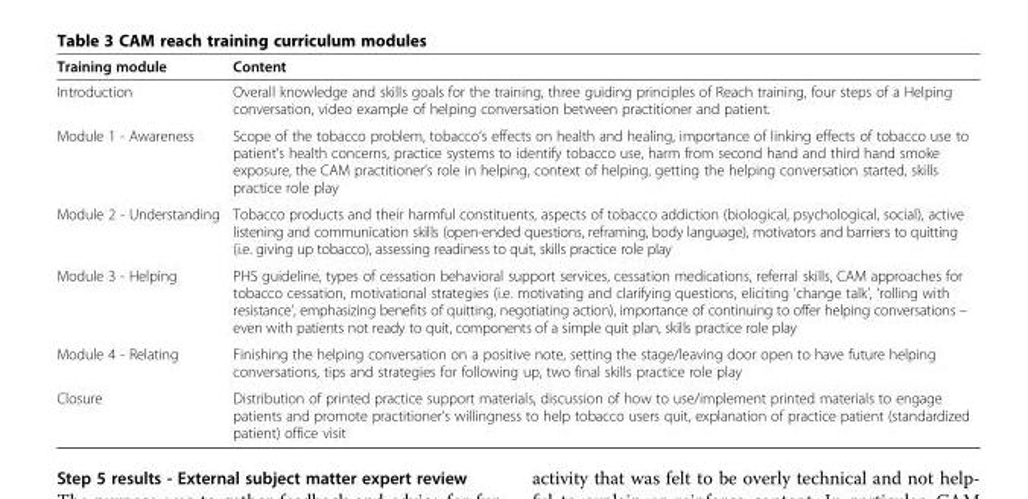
<table><thead><tr><td>Training module</td><td>Content</td></tr></thead><tbody><tr><td>Introduction</td><td>Overall knowledge and skills goals for the training, three guiding principles of Reach training, four steps of a Helping conversation, video example of helping conversation between practitioner and patient.</td></tr><tr><td>Module 1 - Awareness</td><td>Scope of the tobacco problem, tobacco’s effects on health and healing, importance of linking effects of tobacco use to patient’s health concerns, practice systems to identify tobacco use, harm from second hand and third hand smoke exposure, the CAM practitioner’s role in helping, context of helping, getting the helping conversation started, skills practice role play</td></tr><tr><td>Module 2 - Understanding</td><td>Tobacco products and their harmful constituents, aspects of tobacco addiction (biological, psychological, social), active listening and communication skills (open-ended questions, reframing, body language), motivators and barriers to quitting (i.e. giving up tobacco), assessing readiness to quit, skills practice role play</td></tr><tr><td>Module 3 - Helping</td><td>PHS guideline, types of cessation behavioral support services, cessation medications, referral skills, CAM approaches for tobacco cessation, motivational strategies (i.e. motivating and clarifying questions, eliciting ‘change talk’, ‘rolling with resistance’, emphasizing benefits of quitting, negotiating action), importance of continuing to offer helping conversations – even with patients not ready to quit, components of a simple quit plan, skills practice role play</td></tr><tr><td>Module 4 - Relating</td><td>Finishing the helping conversation on a positive note, setting the stage/leaving door open to have future helping conversations, tips and strategies for following up, two final skills practice role play</td></tr><tr><td>Closure</td><td>Distribution of printed practice support materials, discussion of how to use/implement printed materials to engage patients and promote practitioner’s willingness to help tobacco users quit, explanation of practice patient (standardized patient) office visit</td></tr></tbody></table>